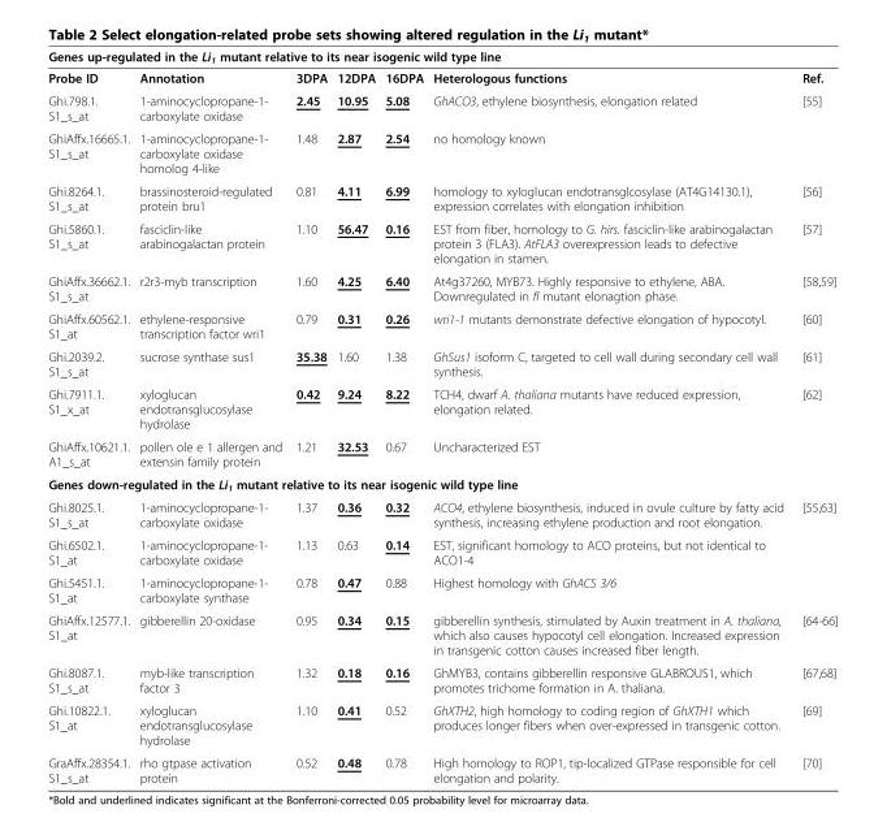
<table><thead><tr><td colspan="7">Genes up-regulated in the Li<sub>1</sub> mutant relative to its near isogenic wild type line</td></tr><tr><td>Probe ID</td><td>Annotation</td><td>3DPA</td><td>12DPA</td><td>16DPA</td><td>Heterologous functions</td><td>Ref.</td></tr></thead><tbody><tr><td>Ghi.798.1. S1_s_at</td><td>1-aminocyclopropane-1- carboxylate oxidase</td><td>2.45</td><td>10.95</td><td>5.08</td><td>GhACO3, ethylene biosynthesis, elongation related</td><td>[55]</td></tr><tr><td>GhiAffx.16665.1. S1_s_at</td><td>1-aminocyclopropane-1- carboxylate oxidase homolog 4-like</td><td>1.48</td><td>2.87</td><td>2.54</td><td>no homology known</td><td></td></tr><tr><td>Ghi.8264.1. S1_s_at</td><td>brassinosteroid-regulated protein bru1</td><td>0.81</td><td>4.11</td><td>6.99</td><td>homology to xyloglucan endotransglcosylase (AT4G14130.1), expression correlates with elongation inhibition</td><td>[56]</td></tr><tr><td>Ghi.5860.1. S1_s_at</td><td>fasciclin-like arabinogalactan protein</td><td>1.10</td><td>56.47</td><td>0.16</td><td>EST from fiber, homology to G. hirs. fasciclin-like arabinogalactan protein 3 (FLA3). AtFLA3 overexpression leads to defective elongation in stamen.</td><td>[57]</td></tr><tr><td>GhiAffx.36662.1. S1_s_at</td><td>r2r3-myb transcription</td><td>1.60</td><td>4.25</td><td>6.40</td><td>At4g37260, MYB73. Highly responsive to ethylene, ABA. Downregulated in fl mutant elonagtion phase.</td><td>[58,59]</td></tr><tr><td>GhiAffx.60562.1. S1_at</td><td>ethylene-responsive transcription factor wri1</td><td>0.79</td><td>0.31</td><td>0.26</td><td>wri1-1 mutants demonstrate defective elongation of hypocotyl.</td><td>[60]</td></tr><tr><td>Ghi.2039.2. S1_s_at</td><td>sucrose synthase sus1</td><td>35.38</td><td>1.60</td><td>1.38</td><td>GhSus1 isoform C, targeted to cell wall during secondary cell wall synthesis.</td><td>[61]</td></tr><tr><td>Ghi.7911.1. S1_x_at</td><td>xyloglucan endotransglucosylase hydrolase</td><td>0.42</td><td>9.24</td><td>8.22</td><td>TCH4, dwarf A. thaliana mutants have reduced expression, elongation related.</td><td>[62]</td></tr><tr><td>GhiAffx.10621.1. A1_s_at</td><td>pollen ole e 1 allergen and extensin family protein</td><td>1.21</td><td>32.53</td><td>0.67</td><td>Uncharacterized EST</td><td></td></tr><tr><td colspan="7">Genes down-regulated in the Li<sub>1</sub> mutant relative to its near isogenic wild type line</td></tr><tr><td>Ghi.8025.1. S1_s_at</td><td>1-aminocyclopropane-1- carboxylate oxidase</td><td>1.37</td><td>0.36</td><td>0.32</td><td>ACO4, ethylene biosynthesis, induced in ovule culture by fatty acid synthesis, increasing ethylene production and root elongation.</td><td>[55,63]</td></tr><tr><td>Ghi.6502.1. S1_at</td><td>1-aminocyclopropane-1- carboxylate oxidase</td><td>1.13</td><td>0.63</td><td>0.14</td><td>EST, significant homology to ACO proteins, but not identical to ACO1-4</td><td></td></tr><tr><td>Ghi.5451.1. S1_at</td><td>1-aminocyclopropane-1- carboxylate synthase</td><td>0.78</td><td>0.47</td><td>0.88</td><td>Highest homology with GhACS 3/6</td><td></td></tr><tr><td>GhiAffx.12577.1. S1_at</td><td>gibberellin 20-oxidase</td><td>0.95</td><td>0.34</td><td>0.15</td><td>gibberellin synthesis, stimulated by Auxin treatment in A. thaliana, which also causes hypocotyl cell elongation. Increased expression in transgenic cotton causes increased fiber length.</td><td>[64-66]</td></tr><tr><td>Ghi.8087.1. S1_s_at</td><td>myb-like transcription factor 3</td><td>1.32</td><td>0.18</td><td>0.16</td><td>GhMYB3, contains gibberellin responsive GLABROUS1, which promotes trichome formation in A. thaliana.</td><td>[67,68]</td></tr><tr><td>Ghi.10822.1. S1_at</td><td>xyloglucan endotransglucosylase hydrolase</td><td>1.10</td><td>0.41</td><td>0.52</td><td>GhXTH2, high homology to coding region of GhXTH1 which produces longer fibers when over-expressed in transgenic cotton.</td><td>[69]</td></tr><tr><td>GraAffx.28354.1. S1_s_at</td><td>rho gtpase activation protein</td><td>0.52</td><td>0.48</td><td>0.78</td><td>High homology to ROP1, tip-localized GTPase responsible for cell elongation and polarity.</td><td>[70]</td></tr></tbody></table>